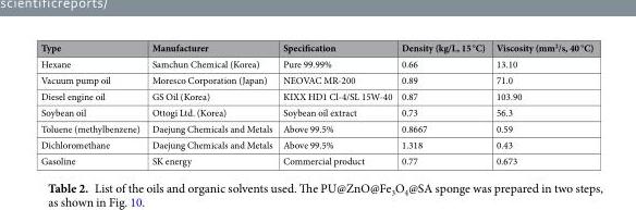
<table><thead><tr><td>Type</td><td>Manufacturer</td><td>Specification</td><td>Density (kg/L, 15 °C)</td><td>Viscosity (mm<sup>2</sup>/s, 40 °C)</td></tr></thead><tbody><tr><td>Hexane</td><td>Samchun Chemical (Korea)</td><td>Pure 99.99%</td><td>0.66</td><td>13.10</td></tr><tr><td>Vacuum pump oil</td><td>Moresco Corporation (Japan)</td><td>NEOVAC MR-200</td><td>0.89</td><td>71.0</td></tr><tr><td>Diesel engine oil</td><td>GS Oil (Korea)</td><td>KIXX HD1 Cl-4/SL 15W-40</td><td>0.87</td><td>103.90</td></tr><tr><td>Soybean oil</td><td>Ottogi Ltd. (Korea)</td><td>Soybean oil extract</td><td>0.73</td><td>56.3</td></tr><tr><td>Toluene (methylbenzene)</td><td>Daejung Chemicals and Metals</td><td>Above 99.5%</td><td>0.8667</td><td>0.59</td></tr><tr><td>Dichloromethane</td><td>Daejung Chemicals and Metals</td><td>Above 99.5%</td><td>1.318</td><td>0.43</td></tr><tr><td>Gasoline</td><td>SK energy</td><td>Commercial product</td><td>0.77</td><td>0.673</td></tr></tbody></table>